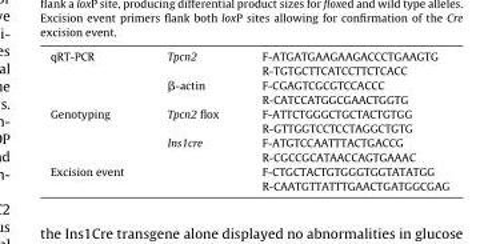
<table><tbody><tr><td rowspan="2">qRT-PCR</td><td>Tpcn2</td><td>F-ATGATGAAGAAGACCCTGAAGTG R-TGTGCTTCATCCTTCTCACC</td></tr><tr><td>β-actin</td><td>F-CGAGTCGCGTCCACCC R-CATCCATGGCGAACTGGTG</td></tr><tr><td rowspan="2">Genotyping</td><td>Tpcn2 flox</td><td>F-ATTCTGGGCTGCTACTGTGG R-GTTGGTCCTCCTAGGCTGTG</td></tr><tr><td>Ins1cre</td><td>F-ATGTCCAATTTACTGACCG R-CGCCGCATAACCAGTGAAAC</td></tr><tr><td>Excision event</td><td></td><td>F-CTGCTACTGTGGGTGGTATATGG R-CAATGTTATTTGAACTGATGGCGAG</td></tr></tbody></table>